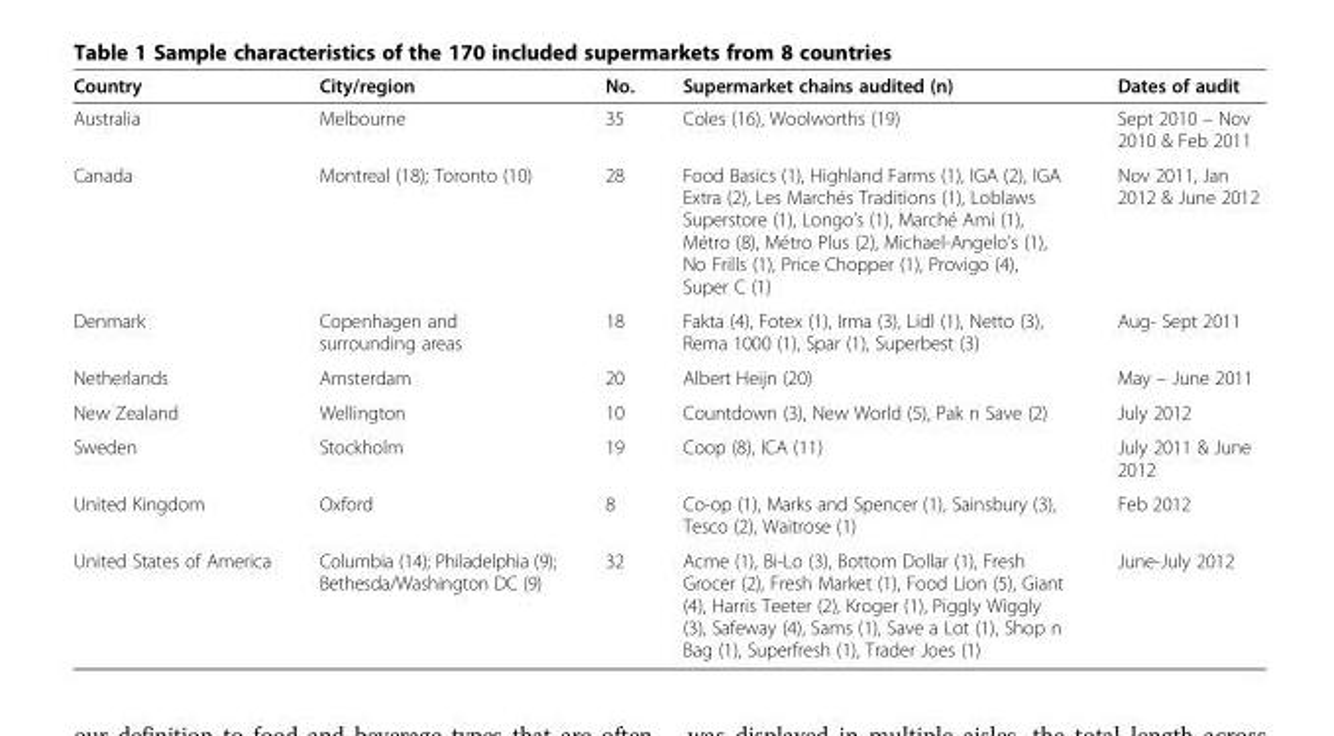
<table><thead><tr><td>Country</td><td>City/region</td><td>No.</td><td>Supermarket chains audited (n)</td><td>Dates of audit</td></tr></thead><tbody><tr><td>Australia</td><td>Melbourne</td><td>35</td><td>Coles (16), Woolworths (19)</td><td>Sept 2010 – Nov 2010 &amp; Feb 2011</td></tr><tr><td>Canada</td><td>Montreal (18); Toronto (10)</td><td>28</td><td>Food Basics (1), Highland Farms (1), IGA (2), IGA Extra (2), Les Marchés Traditions (1), Loblaws Superstore (1), Longo’s (1), Marché Ami (1), Métro (8), Métro Plus (2), Michael-Angelo’s (1), No Frills (1), Price Chopper (1), Provigo (4), Super C (1)</td><td>Nov 2011, Jan 2012 &amp; June 2012</td></tr><tr><td>Denmark</td><td>Copenhagen and surrounding areas</td><td>18</td><td>Fakta (4), Fotex (1), Irma (3), Lidl (1), Netto (3), Rema 1000 (1), Spar (1), Superbest (3)</td><td>Aug- Sept 2011</td></tr><tr><td>Netherlands</td><td>Amsterdam</td><td>20</td><td>Albert Heijn (20)</td><td>May – June 2011</td></tr><tr><td>New Zealand</td><td>Wellington</td><td>10</td><td>Countdown (3), New World (5), Pak n Save (2)</td><td>July 2012</td></tr><tr><td>Sweden</td><td>Stockholm</td><td>19</td><td>Coop (8), ICA (11)</td><td>July 2011 &amp; June 2012</td></tr><tr><td>United Kingdom</td><td>Oxford</td><td>8</td><td>Co-op (1), Marks and Spencer (1), Sainsbury (3), Tesco (2), Waitrose (1)</td><td>Feb 2012</td></tr><tr><td>United States of America</td><td>Columbia (14); Philadelphia (9); Bethesda/Washington DC (9)</td><td>32</td><td>Acme (1), Bi-Lo (3), Bottom Dollar (1), Fresh Grocer (2), Fresh Market (1), Food Lion (5), Giant (4), Harris Teeter (2), Kroger (1), Piggly Wiggly (3), Safeway (4), Sams (1), Save a Lot (1), Shop n Bag (1), Superfresh (1), Trader Joes (1)</td><td>June-July 2012</td></tr></tbody></table>